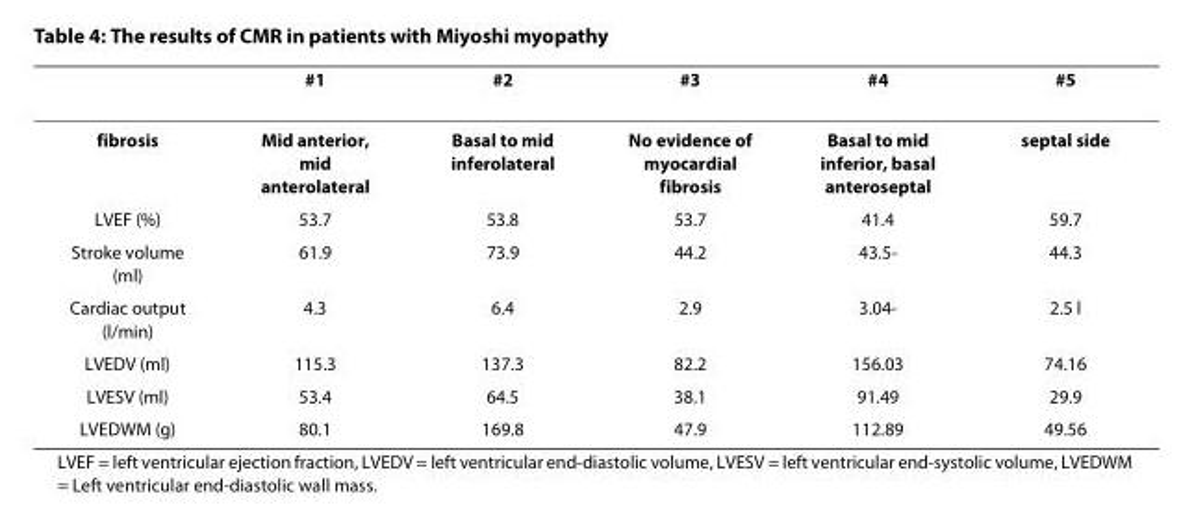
<table><thead><tr><td></td><td>#1</td><td>#2</td><td>#3</td><td>#4</td><td>#5</td></tr></thead><tbody><tr><td>fibrosis</td><td>Mid anterior, mid anterolateral</td><td>Basal to mid inferolateral</td><td>No evidence of myocardial fibrosis</td><td>Basal to mid inferior, basal anteroseptal</td><td>septal side</td></tr><tr><td>LVEF (%)</td><td>53.7</td><td>53.8</td><td>53.7</td><td>41.4</td><td>59.7</td></tr><tr><td>Stroke volume (ml)</td><td>61.9</td><td>73.9</td><td>44.2</td><td>43.5-</td><td>44.3</td></tr><tr><td>Cardiac output (l/min)</td><td>4.3</td><td>6.4</td><td>2.9</td><td>3.04-</td><td>2.5 l</td></tr><tr><td>LVEDV (ml)</td><td>115.3</td><td>137.3</td><td>82.2</td><td>156.03</td><td>74.16</td></tr><tr><td>LVESV (ml)</td><td>53.4</td><td>64.5</td><td>38.1</td><td>91.49</td><td>29.9</td></tr><tr><td>LVEDWM (g)</td><td>80.1</td><td>169.8</td><td>47.9</td><td>112.89</td><td>49.56</td></tr></tbody></table>